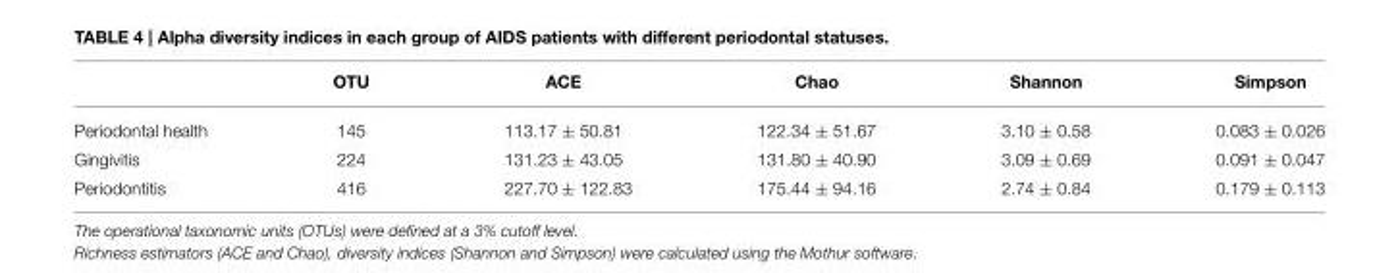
<table><thead><tr><td></td><td>OTU</td><td>ACE</td><td>Chao</td><td>Shannon</td><td>Simpson</td></tr></thead><tbody><tr><td>Periodontal health</td><td>145</td><td>113.17 ± 50.81</td><td>122.34 ± 51.67</td><td>3.10 ± 0.58</td><td>0.083 ± 0.026</td></tr><tr><td>Gingivitis</td><td>224</td><td>131.23 ± 43.05</td><td>131.80 ± 40.90</td><td>3.09 ± 0.69</td><td>0.091 ± 0.047</td></tr><tr><td>Periodontitis</td><td>416</td><td>227.70 ± 122.83</td><td>175.44 ± 94.16</td><td>2.74 ± 0.84</td><td>0.179 ± 0.113</td></tr></tbody></table>